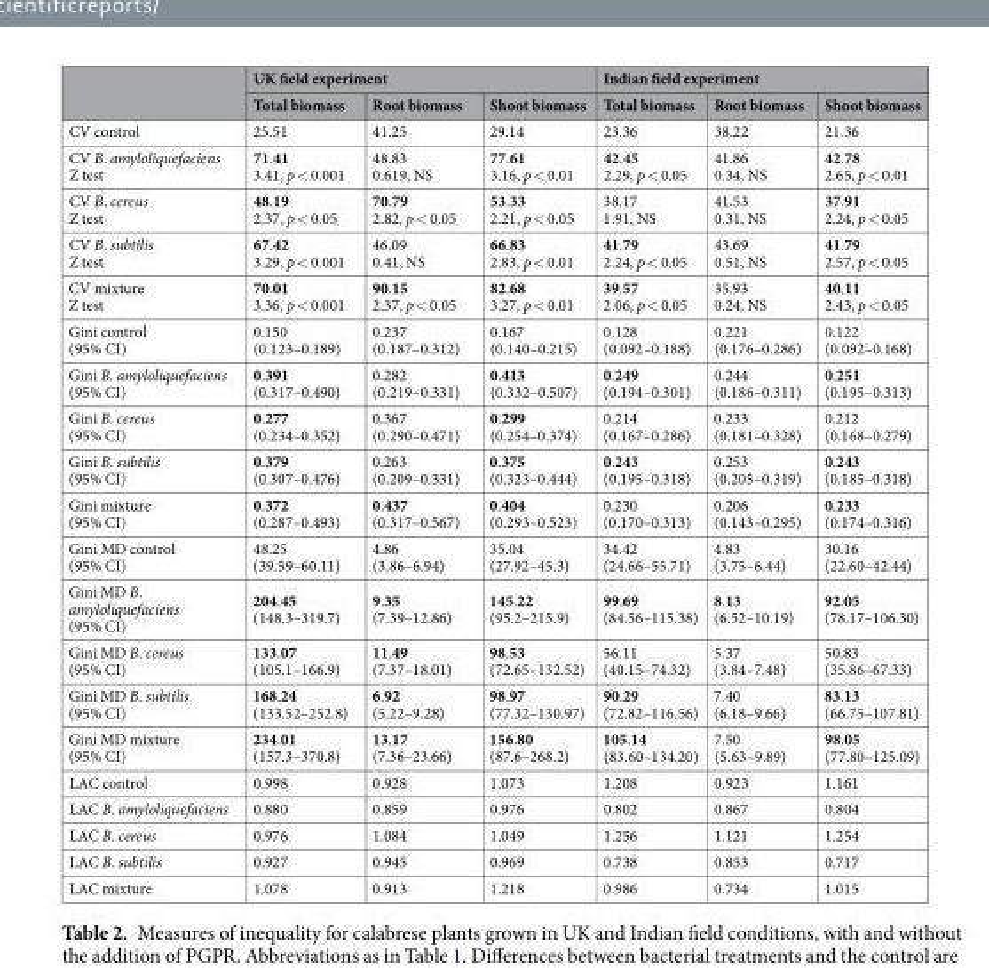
<table><thead><tr><td rowspan="2"></td><td colspan="3">UK field experiment</td><td colspan="3">Indian field experiment</td></tr><tr><td>Total biomass</td><td>Root biomass</td><td>Shoot biomass</td><td>Total biomass</td><td>Root biomass</td><td>Shoot biomass</td></tr></thead><tbody><tr><td>CV control</td><td>25.51</td><td>41.25</td><td>29.14</td><td>23.36</td><td>38.22</td><td>21.36</td></tr><tr><td>CV B. amyloliquefaciens Z test</td><td>71.41 3.41, p &lt; 0.001</td><td>48.83 0.619, NS</td><td>77.61 3.16, p &lt; 0.01</td><td>42.45 2.29, p &lt; 0.05</td><td>41.86 0.34, NS</td><td>42.78 2.65, p &lt; 0.01</td></tr><tr><td>CV B. cereus Z test</td><td>48.19 2.37, p &lt; 0.05</td><td>70.79 2.82, p &lt; 0.05</td><td>53.33 2.21, p &lt; 0.05</td><td>38.17 1.91, NS</td><td>41.53 0.31, NS</td><td>37.91 2.24, p &lt; 0.05</td></tr><tr><td>CV B. subtilis Z test</td><td>67.42 3.29, p &lt; 0.001</td><td>46.09 0.41, NS</td><td>66.83 2.83, p &lt; 0.01</td><td>41.79 2.24, p &lt; 0.05</td><td>43.69 0.51, NS</td><td>41.79 2.57, p &lt; 0.05</td></tr><tr><td>CV mixture Z test</td><td>70.01 3.36, p &lt; 0.001</td><td>90.15 2.37, p &lt; 0.05</td><td>82.68 3.27, p &lt; 0.01</td><td>39.57 2.06, p &lt; 0.05</td><td>35.93 0.24, NS</td><td>40.11 2.43, p &lt; 0.05</td></tr><tr><td>Gini control (95% CI)</td><td>0.150 (0.123–0.189)</td><td>0.237 (0.187–0.312)</td><td>0.167 (0.140–0.215)</td><td>0.128 (0.092–0.188)</td><td>0.221 (0.176–0.286)</td><td>0.122 (0.092–0.168)</td></tr><tr><td>Gini B. amyloliquefaciens (95% CI)</td><td>0.391 (0.317–0.490)</td><td>0.282 (0.219–0.331)</td><td>0.413 (0.332–0.507)</td><td>0.249 (0.194–0.301)</td><td>0.244 (0.186–0.311)</td><td>0.251 (0.195–0.313)</td></tr><tr><td>Gini B. cereus (95% CI)</td><td>0.277 (0.234–0.352)</td><td>0.367 (0.290–0.471)</td><td>0.299 (0.254–0.374)</td><td>0.214 (0.167–0.286)</td><td>0.233 (0.181–0.328)</td><td>0.212 (0.168–0.279)</td></tr><tr><td>Gini B. subtilis (95% CI)</td><td>0.379 (0.307–0.476)</td><td>0.263 (0.209–0.331)</td><td>0.375 (0.323–0.444)</td><td>0.243 (0.195–0.318)</td><td>0.253 (0.205–0.319)</td><td>0.243 (0.185–0.318)</td></tr><tr><td>Gini mixture (95% CI)</td><td>0.372 (0.287–0.493)</td><td>0.437 (0.317–0.567)</td><td>0.404 (0.293–0.523)</td><td>0.230 (0.170–0.313)</td><td>0.206 (0.143–0.295)</td><td>0.233 (0.174–0.316)</td></tr><tr><td>Gini MD control (95% CI)</td><td>48.25 (39.59–60.11)</td><td>4.86 (3.86–6.94)</td><td>35.04 (27.92–45.3)</td><td>34.42 (24.66–55.71)</td><td>4.83 (3.75–6.44)</td><td>30.16 (22.60–42.44)</td></tr><tr><td>Gini MD B. amyloliquefaciens (95% CI)</td><td>204.45 (148.3–319.7)</td><td>9.35 (7.39–12.86)</td><td>145.22 (95.2–215.9)</td><td>99.69 (84.56–115.38)</td><td>8.13 (6.52–10.19)</td><td>92.05 (78.17–106.30)</td></tr><tr><td>Gini MD B. cereus (95% CI)</td><td>133.07 (105.1–166.9)</td><td>11.49 (7.37–18.01)</td><td>98.53 (72.65–132.52)</td><td>56.11 (40.15–74.32)</td><td>5.37 (3.84–7.48)</td><td>50.83 (35.86–67.33)</td></tr><tr><td>Gini MD B. subtilis (95% CI)</td><td>168.24 (133.52–252.8)</td><td>6.92 (5.22–9.28)</td><td>98.97 (77.32–130.97)</td><td>90.29 (72.82–116.56)</td><td>7.40 (6.18–9.66)</td><td>83.13 (66.75–107.81)</td></tr><tr><td>Gini MD mixture (95% CI)</td><td>234.01 (157.3–370.8)</td><td>13.17 (7.36–23.66)</td><td>156.80 (87.6–268.2)</td><td>105.14 (83.60–134.20)</td><td>7.50 (5.63–9.89)</td><td>98.05 (77.80–125.09)</td></tr><tr><td>LAC control</td><td>0.998</td><td>0.928</td><td>1.073</td><td>1.208</td><td>0.923</td><td>1.161</td></tr><tr><td>LAC B. amyloliquefaciens</td><td>0.880</td><td>0.859</td><td>0.976</td><td>0.802</td><td>0.867</td><td>0.804</td></tr><tr><td>LAC B. cereus</td><td>0.976</td><td>1.084</td><td>1.049</td><td>1.256</td><td>1.121</td><td>1.254</td></tr><tr><td>LAC B. subtilis</td><td>0.927</td><td>0.945</td><td>0.969</td><td>0.738</td><td>0.853</td><td>0.717</td></tr><tr><td>LAC mixture</td><td>1.078</td><td>0.913</td><td>1.218</td><td>0.986</td><td>0.734</td><td>1.015</td></tr></tbody></table>